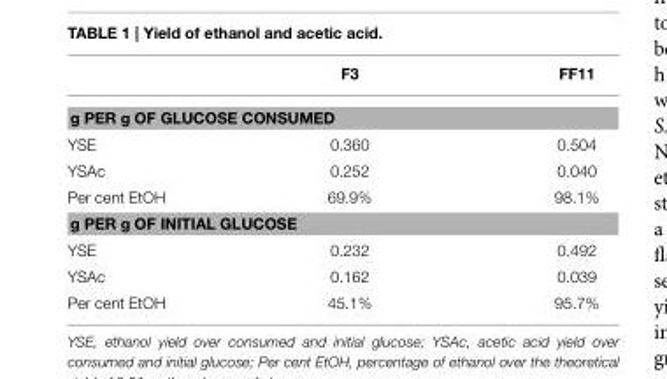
<table><thead><tr><td></td><td>F3</td><td>FF11</td></tr></thead><tbody><tr><td colspan="3">g PER g OF GLUCOSE CONSUMED</td></tr><tr><td>YSE</td><td>0.360</td><td>0.504</td></tr><tr><td>YSAc</td><td>0.252</td><td>0.040</td></tr><tr><td>Per cent EtOH</td><td>69.9%</td><td>98.1%</td></tr><tr><td colspan="3">g PER g OF INITIAL GLUCOSE</td></tr><tr><td>YSE</td><td>0.232</td><td>0.492</td></tr><tr><td>YSAc</td><td>0.162</td><td>0.039</td></tr><tr><td>Per cent EtOH</td><td>45.1%</td><td>95.7%</td></tr></tbody></table>